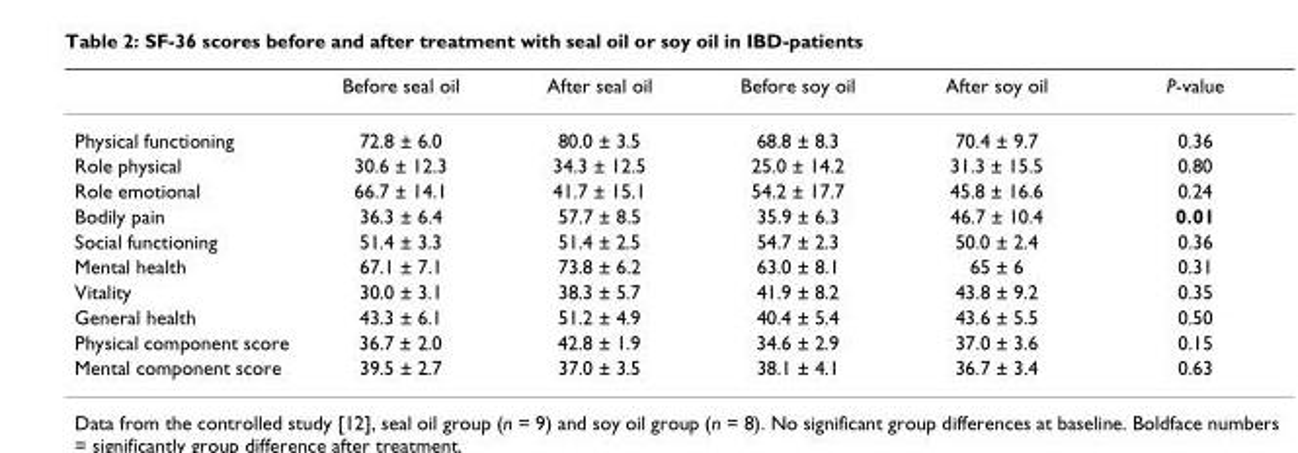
<table><thead><tr><td></td><td>Before seal oil</td><td>After seal oil</td><td>Before soy oil</td><td>After soy oil</td><td>P-value</td></tr></thead><tbody><tr><td>Physical functioning</td><td>72.8 ± 6.0</td><td>80.0 ± 3.5</td><td>68.8 ± 8.3</td><td>70.4 ± 9.7</td><td>0.36</td></tr><tr><td>Role physical</td><td>30.6 ± 12.3</td><td>34.3 ± 12.5</td><td>25.0 ± 14.2</td><td>31.3 ± 15.5</td><td>0.80</td></tr><tr><td>Role emotional</td><td>66.7 ± 14.1</td><td>41.7 ± 15.1</td><td>54.2 ± 17.7</td><td>45.8 ± 16.6</td><td>0.24</td></tr><tr><td>Bodily pain</td><td>36.3 ± 6.4</td><td>57.7 ± 8.5</td><td>35.9 ± 6.3</td><td>46.7 ± 10.4</td><td>0.01</td></tr><tr><td>Social functioning</td><td>51.4 ± 3.3</td><td>51.4 ± 2.5</td><td>54.7 ± 2.3</td><td>50.0 ± 2.4</td><td>0.36</td></tr><tr><td>Mental health</td><td>67.1 ± 7.1</td><td>73.8 ± 6.2</td><td>63.0 ± 8.1</td><td>65 ± 6</td><td>0.31</td></tr><tr><td>Vitality</td><td>30.0 ± 3.1</td><td>38.3 ± 5.7</td><td>41.9 ± 8.2</td><td>43.8 ± 9.2</td><td>0.35</td></tr><tr><td>General health</td><td>43.3 ± 6.1</td><td>51.2 ± 4.9</td><td>40.4 ± 5.4</td><td>43.6 ± 5.5</td><td>0.50</td></tr><tr><td>Physical component score</td><td>36.7 ± 2.0</td><td>42.8 ± 1.9</td><td>34.6 ± 2.9</td><td>37.0 ± 3.6</td><td>0.15</td></tr><tr><td>Mental component score</td><td>39.5 ± 2.7</td><td>37.0 ± 3.5</td><td>38.1 ± 4.1</td><td>36.7 ± 3.4</td><td>0.63</td></tr></tbody></table>